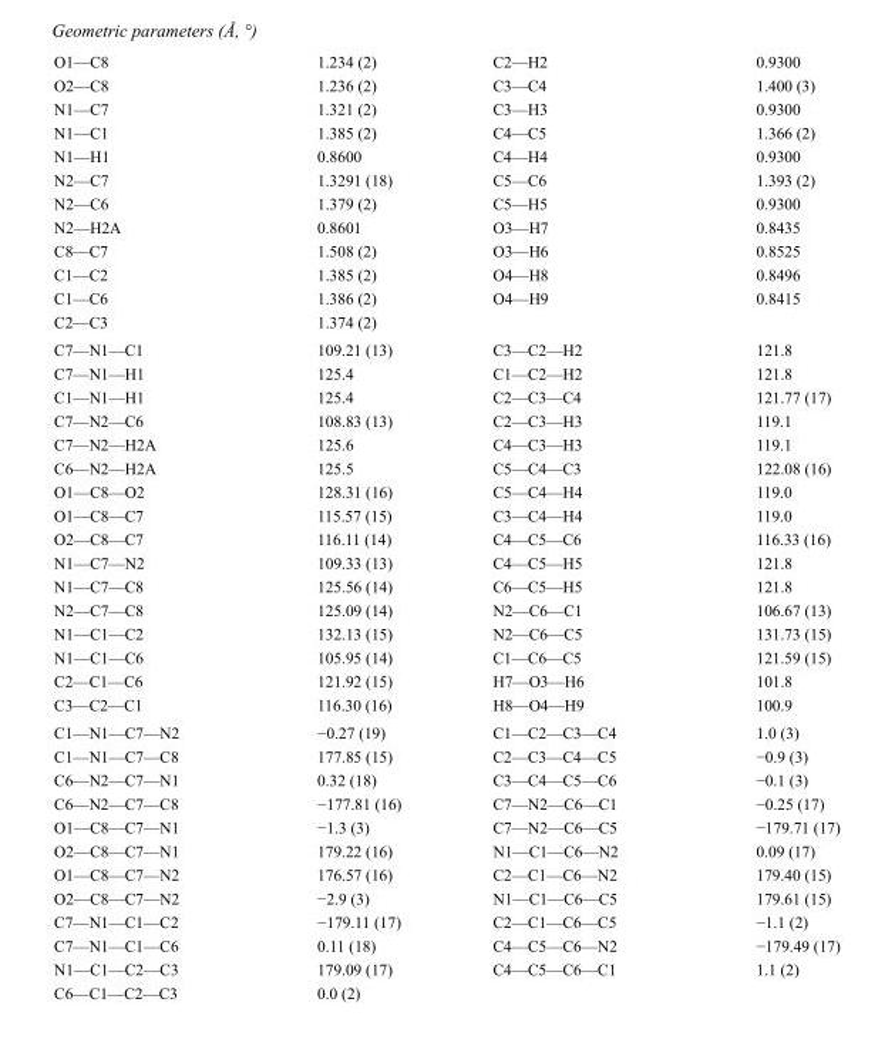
<table><tbody><tr><td>O1—C8</td><td>1.234 (2)</td><td>C2—H2</td><td>0.9300</td></tr><tr><td>O2—C8</td><td>1.236 (2)</td><td>C3—C4</td><td>1.400 (3)</td></tr><tr><td>N1—C7</td><td>1.321 (2)</td><td>C3—H3</td><td>0.9300</td></tr><tr><td>N1—C1</td><td>1.385 (2)</td><td>C4—C5</td><td>1.366 (2)</td></tr><tr><td>N1—H1</td><td>0.8600</td><td>C4—H4</td><td>0.9300</td></tr><tr><td>N2—C7</td><td>1.3291 (18)</td><td>C5—C6</td><td>1.393 (2)</td></tr><tr><td>N2—C6</td><td>1.379 (2)</td><td>C5—H5</td><td>0.9300</td></tr><tr><td>N2—H2A</td><td>0.8601</td><td>O3—H7</td><td>0.8435</td></tr><tr><td>C8—C7</td><td>1.508 (2)</td><td>O3—H6</td><td>0.8525</td></tr><tr><td>C1—C2</td><td>1.385 (2)</td><td>O4—H8</td><td>0.8496</td></tr><tr><td>C1—C6</td><td>1.386 (2)</td><td>O4—H9</td><td>0.8415</td></tr><tr><td>C2—C3</td><td>1.374 (2)</td><td></td><td></td></tr><tr><td>C7—N1—C1</td><td>109.21 (13)</td><td>C3—C2—H2</td><td>121.8</td></tr><tr><td>C7—N1—H1</td><td>125.4</td><td>C1—C2—H2</td><td>121.8</td></tr><tr><td>C1—N1—H1</td><td>125.4</td><td>C2—C3—C4</td><td>121.77 (17)</td></tr><tr><td>C7—N2—C6</td><td>108.83 (13)</td><td>C2—C3—H3</td><td>119.1</td></tr><tr><td>C7—N2—H2A</td><td>125.6</td><td>C4—C3—H3</td><td>119.1</td></tr><tr><td>C6—N2—H2A</td><td>125.5</td><td>C5—C4—C3</td><td>122.08 (16)</td></tr><tr><td>O1—C8—O2</td><td>128.31 (16)</td><td>C5—C4—H4</td><td>119.0</td></tr><tr><td>O1—C8—C7</td><td>115.57 (15)</td><td>C3—C4—H4</td><td>119.0</td></tr><tr><td>O2—C8—C7</td><td>116.11 (14)</td><td>C4—C5—C6</td><td>116.33 (16)</td></tr><tr><td>N1—C7—N2</td><td>109.33 (13)</td><td>C4—C5—H5</td><td>121.8</td></tr><tr><td>N1—C7—C8</td><td>125.56 (14)</td><td>C6—C5—H5</td><td>121.8</td></tr><tr><td>N2—C7—C8</td><td>125.09 (14)</td><td>N2—C6—C1</td><td>106.67 (13)</td></tr><tr><td>N1—C1—C2</td><td>132.13 (15)</td><td>N2—C6—C5</td><td>131.73 (15)</td></tr><tr><td>N1—C1—C6</td><td>105.95 (14)</td><td>C1—C6—C5</td><td>121.59 (15)</td></tr><tr><td>C2—C1—C6</td><td>121.92 (15)</td><td>H7—O3—H6</td><td>101.8</td></tr><tr><td>C3—C2—C1</td><td>116.30 (16)</td><td>H8—O4—H9</td><td>100.9</td></tr><tr><td>C1—N1—C7—N2</td><td>−0.27 (19)</td><td>C1—C2—C3—C4</td><td>1.0 (3)</td></tr><tr><td>C1—N1—C7—C8</td><td>177.85 (15)</td><td>C2—C3—C4—C5</td><td>−0.9 (3)</td></tr><tr><td>C6—N2—C7—N1</td><td>0.32 (18)</td><td>C3—C4—C5—C6</td><td>−0.1 (3)</td></tr><tr><td>C6—N2—C7—C8</td><td>−177.81 (16)</td><td>C7—N2—C6—C1</td><td>−0.25 (17)</td></tr><tr><td>O1—C8—C7—N1</td><td>−1.3 (3)</td><td>C7—N2—C6—C5</td><td>−179.71 (17)</td></tr><tr><td>O2—C8—C7—N1</td><td>179.22 (16)</td><td>N1—C1—C6—N2</td><td>0.09 (17)</td></tr><tr><td>O1—C8—C7—N2</td><td>176.57 (16)</td><td>C2—C1—C6—N2</td><td>179.40 (15)</td></tr><tr><td>O2—C8—C7—N2</td><td>−2.9 (3)</td><td>N1—C1—C6—C5</td><td>179.61 (15)</td></tr><tr><td>C7—N1—C1—C2</td><td>−179.11 (17)</td><td>C2—C1—C6—C5</td><td>−1.1 (2)</td></tr><tr><td>C7—N1—C1—C6</td><td>0.11 (18)</td><td>C4—C5—C6—N2</td><td>−179.49 (17)</td></tr><tr><td>N1—C1—C2—C3</td><td>179.09 (17)</td><td>C4—C5—C6—C1</td><td>1.1 (2)</td></tr><tr><td>C6—C1—C2—C3</td><td>0.0 (2)</td><td></td><td></td></tr></tbody></table>